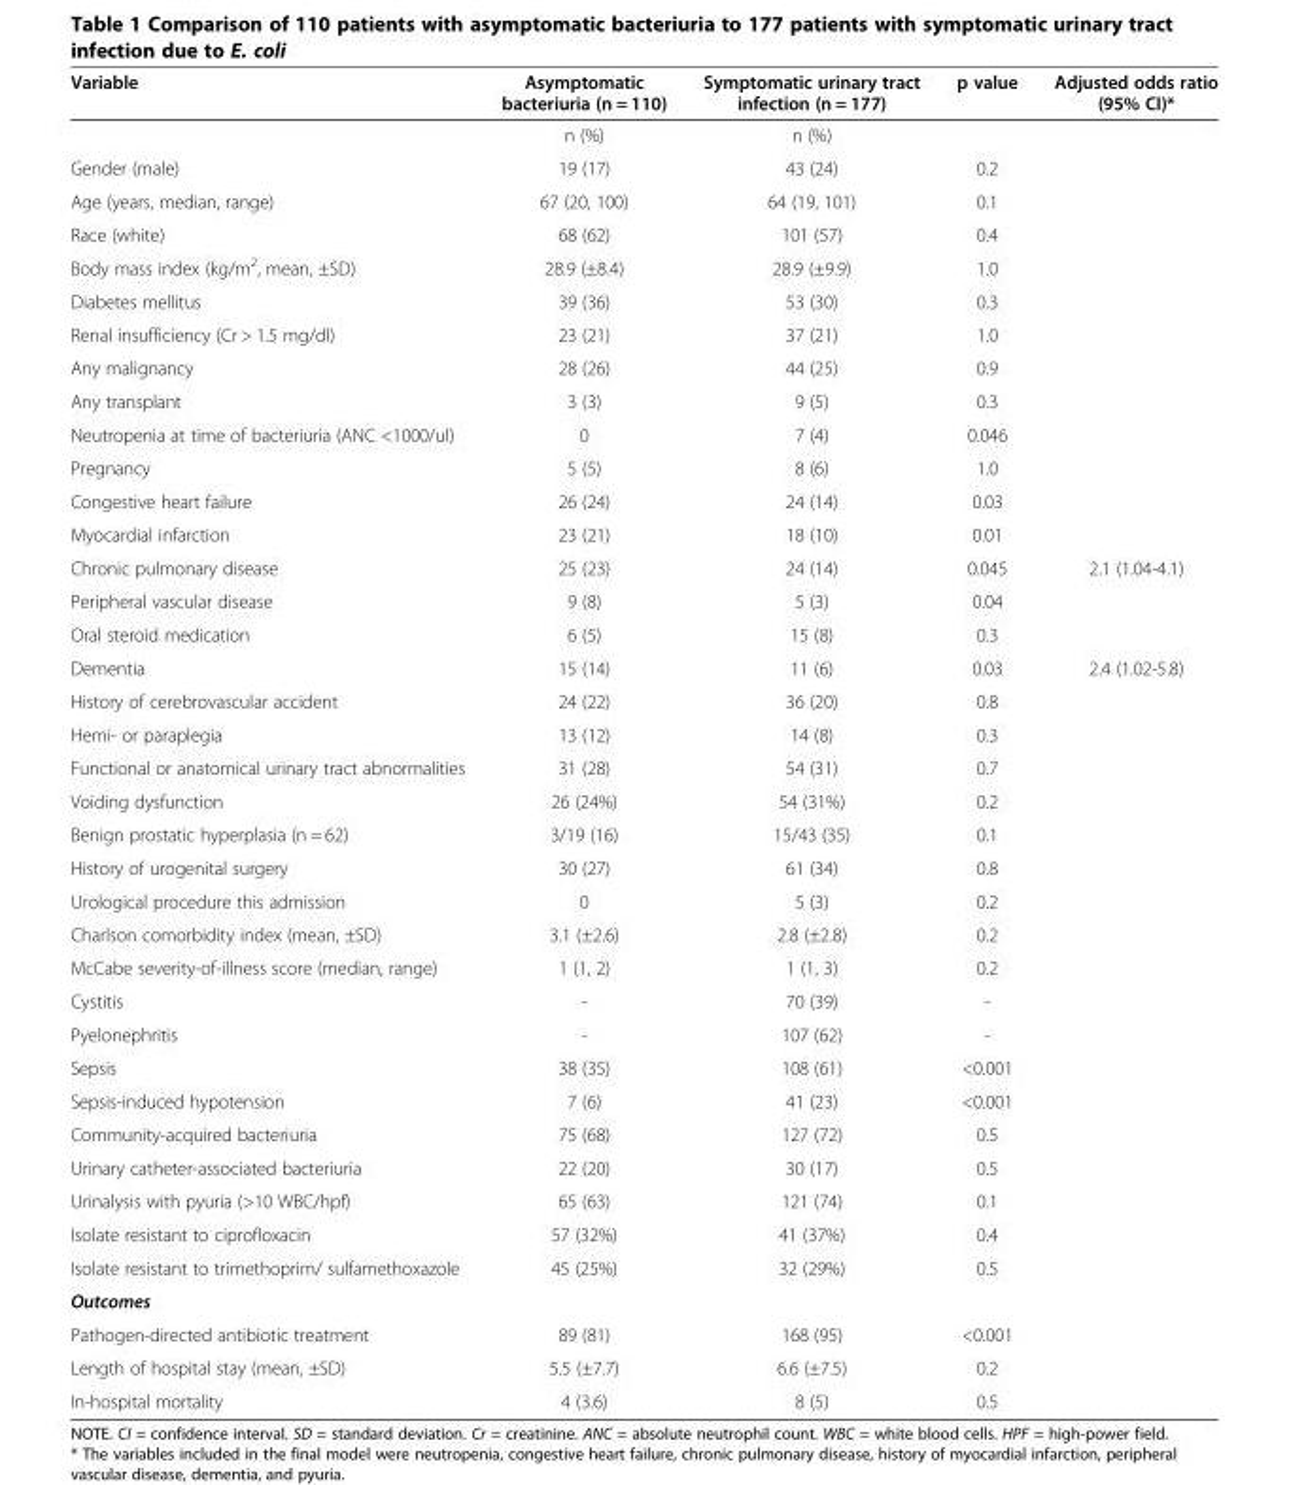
<table><thead><tr><td>Variable</td><td>Asymptomatic bacteriuria (n = 110)</td><td>Symptomatic urinary tract infection (n = 177)</td><td>p value</td><td>Adjusted odds ratio (95% CI)*</td></tr></thead><tbody><tr><td></td><td>n (%)</td><td>n (%)</td><td></td><td></td></tr><tr><td>Gender (male)</td><td>19 (17)</td><td>43 (24)</td><td>0.2</td><td></td></tr><tr><td>Age (years, median, range)</td><td>67 (20, 100)</td><td>64 (19, 101)</td><td>0.1</td><td></td></tr><tr><td>Race (white)</td><td>68 (62)</td><td>101 (57)</td><td>0.4</td><td></td></tr><tr><td>Body mass index (kg/m<sup>2</sup>, mean, ±SD)</td><td>28.9 (±8.4)</td><td>28.9 (±9.9)</td><td>1.0</td><td></td></tr><tr><td>Diabetes mellitus</td><td>39 (36)</td><td>53 (30)</td><td>0.3</td><td></td></tr><tr><td>Renal insufficiency (Cr &gt; 1.5 mg/dl)</td><td>23 (21)</td><td>37 (21)</td><td>1.0</td><td></td></tr><tr><td>Any malignancy</td><td>28 (26)</td><td>44 (25)</td><td>0.9</td><td></td></tr><tr><td>Any transplant</td><td>3 (3)</td><td>9 (5)</td><td>0.3</td><td></td></tr><tr><td>Neutropenia at time of bacteriuria (ANC &lt;1000/ul)</td><td>0</td><td>7 (4)</td><td>0.046</td><td></td></tr><tr><td>Pregnancy</td><td>5 (5)</td><td>8 (6)</td><td>1.0</td><td></td></tr><tr><td>Congestive heart failure</td><td>26 (24)</td><td>24 (14)</td><td>0.03</td><td></td></tr><tr><td>Myocardial infarction</td><td>23 (21)</td><td>18 (10)</td><td>0.01</td><td></td></tr><tr><td>Chronic pulmonary disease</td><td>25 (23)</td><td>24 (14)</td><td>0.045</td><td>2.1 (1.04-4.1)</td></tr><tr><td>Peripheral vascular disease</td><td>9 (8)</td><td>5 (3)</td><td>0.04</td><td></td></tr><tr><td>Oral steroid medication</td><td>6 (5)</td><td>15 (8)</td><td>0.3</td><td></td></tr><tr><td>Dementia</td><td>15 (14)</td><td>11 (6)</td><td>0.03</td><td>2.4 (1.02-5.8)</td></tr><tr><td>History of cerebrovascular accident</td><td>24 (22)</td><td>36 (20)</td><td>0.8</td><td></td></tr><tr><td>Hemi- or paraplegia</td><td>13 (12)</td><td>14 (8)</td><td>0.3</td><td></td></tr><tr><td>Functional or anatomical urinary tract abnormalities</td><td>31 (28)</td><td>54 (31)</td><td>0.7</td><td></td></tr><tr><td>Voiding dysfunction</td><td>26 (24%)</td><td>54 (31%)</td><td>0.2</td><td></td></tr><tr><td>Benign prostatic hyperplasia (n = 62)</td><td>3/19 (16)</td><td>15/43 (35)</td><td>0.1</td><td></td></tr><tr><td>History of urogenital surgery</td><td>30 (27)</td><td>61 (34)</td><td>0.8</td><td></td></tr><tr><td>Urological procedure this admission</td><td>0</td><td>5 (3)</td><td>0.2</td><td></td></tr><tr><td>Charlson comorbidity index (mean, ±SD)</td><td>3.1 (±2.6)</td><td>2.8 (±2.8)</td><td>0.2</td><td></td></tr><tr><td>McCabe severity-of-illness score (median, range)</td><td>1 (1, 2)</td><td>1 (1, 3)</td><td>0.2</td><td></td></tr><tr><td>Cystitis</td><td>-</td><td>70 (39)</td><td>-</td><td></td></tr><tr><td>Pyelonephritis</td><td>-</td><td>107 (62)</td><td>-</td><td></td></tr><tr><td>Sepsis</td><td>38 (35)</td><td>108 (61)</td><td>&lt;0.001</td><td></td></tr><tr><td>Sepsis-induced hypotension</td><td>7 (6)</td><td>41 (23)</td><td>&lt;0.001</td><td></td></tr><tr><td>Community-acquired bacteriuria</td><td>75 (68)</td><td>127 (72)</td><td>0.5</td><td></td></tr><tr><td>Urinary catheter-associated bacteriuria</td><td>22 (20)</td><td>30 (17)</td><td>0.5</td><td></td></tr><tr><td>Urinalysis with pyuria (&gt;10 WBC/hpf)</td><td>65 (63)</td><td>121 (74)</td><td>0.1</td><td></td></tr><tr><td>Isolate resistant to ciprofloxacin</td><td>57 (32%)</td><td>41 (37%)</td><td>0.4</td><td></td></tr><tr><td>Isolate resistant to trimethoprim/ sulfamethoxazole</td><td>45 (25%)</td><td>32 (29%)</td><td>0.5</td><td></td></tr><tr><td colspan="5">Outcomes</td></tr><tr><td>Pathogen-directed antibiotic treatment</td><td>89 (81)</td><td>168 (95)</td><td>&lt;0.001</td><td></td></tr><tr><td>Length of hospital stay (mean, ±SD)</td><td>5.5 (±7.7)</td><td>6.6 (±7.5)</td><td>0.2</td><td></td></tr><tr><td>In-hospital mortality</td><td>4 (3.6)</td><td>8 (5)</td><td>0.5</td><td></td></tr></tbody></table>